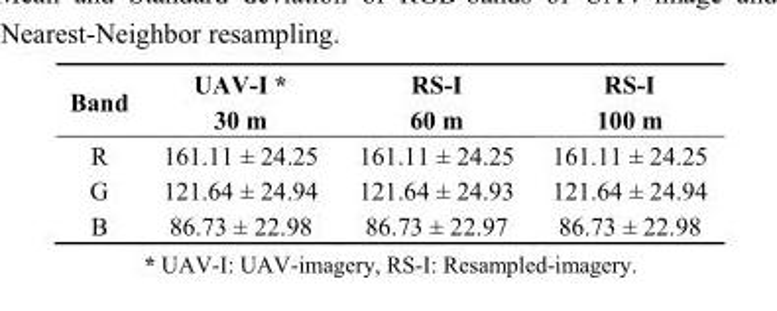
<table><thead><tr><td>Band</td><td>UAV-I * 30 m</td><td>RS-I 60 m</td><td>RS-I 100 m</td></tr></thead><tbody><tr><td>R</td><td>161.11 ± 24.25</td><td>161.11 ± 24.25</td><td>161.11 ± 24.25</td></tr><tr><td>G</td><td>121.64 ± 24.94</td><td>121.64 ± 24.93</td><td>121.64 ± 24.94</td></tr><tr><td>B</td><td>86.73 ± 22.98</td><td>86.73 ± 22.97</td><td>86.73 ± 22.98</td></tr></tbody></table>